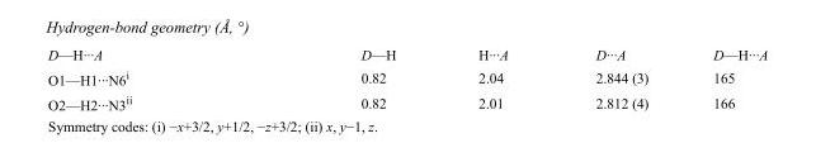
<table><tbody><tr><td>D—H···A</td><td>D—H</td><td>H···A</td><td>D···A</td><td>D—H···A</td></tr><tr><td>O1—H1···N6<sup>i</sup></td><td>0.82</td><td>2.04</td><td>2.844 (3)</td><td>165</td></tr><tr><td>O2—H2···N3<sup>ii</sup></td><td>0.82</td><td>2.01</td><td>2.812 (4)</td><td>166</td></tr></tbody></table>